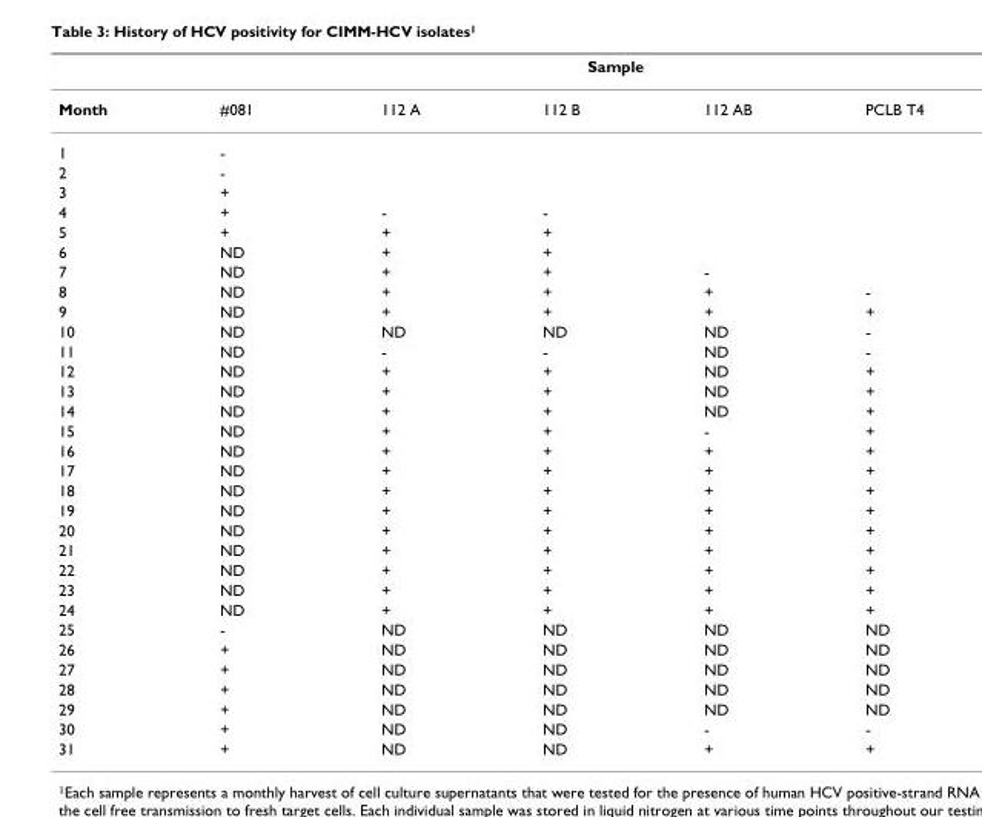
<table><thead><tr><td rowspan="2">Month</td><td colspan="5">Sample</td></tr><tr><td>#081</td><td>112 A</td><td>112 B</td><td>112 AB</td><td>PCLB T4</td></tr></thead><tbody><tr><td>1</td><td>-</td><td></td><td></td><td></td><td></td></tr><tr><td>2</td><td>-</td><td></td><td></td><td></td><td></td></tr><tr><td>3</td><td>+</td><td></td><td></td><td></td><td></td></tr><tr><td>4</td><td>+</td><td>-</td><td>-</td><td></td><td></td></tr><tr><td>5</td><td>+</td><td>+</td><td>+</td><td></td><td></td></tr><tr><td>6</td><td>ND</td><td>+</td><td>+</td><td></td><td></td></tr><tr><td>7</td><td>ND</td><td>+</td><td>+</td><td>-</td><td></td></tr><tr><td>8</td><td>ND</td><td>+</td><td>+</td><td>+</td><td>-</td></tr><tr><td>9</td><td>ND</td><td>+</td><td>+</td><td>+</td><td>+</td></tr><tr><td>10</td><td>ND</td><td>ND</td><td>ND</td><td>ND</td><td>-</td></tr><tr><td>11</td><td>ND</td><td>-</td><td>-</td><td>ND</td><td>-</td></tr><tr><td>12</td><td>ND</td><td>+</td><td>+</td><td>ND</td><td>+</td></tr><tr><td>13</td><td>ND</td><td>+</td><td>+</td><td>ND</td><td>+</td></tr><tr><td>14</td><td>ND</td><td>+</td><td>+</td><td>ND</td><td>+</td></tr><tr><td>15</td><td>ND</td><td>+</td><td>+</td><td>-</td><td>+</td></tr><tr><td>16</td><td>ND</td><td>+</td><td>+</td><td>+</td><td>+</td></tr><tr><td>17</td><td>ND</td><td>+</td><td>+</td><td>+</td><td>+</td></tr><tr><td>18</td><td>ND</td><td>+</td><td>+</td><td>+</td><td>+</td></tr><tr><td>19</td><td>ND</td><td>+</td><td>+</td><td>+</td><td>+</td></tr><tr><td>20</td><td>ND</td><td>+</td><td>+</td><td>+</td><td>+</td></tr><tr><td>21</td><td>ND</td><td>+</td><td>+</td><td>+</td><td>+</td></tr><tr><td>22</td><td>ND</td><td>+</td><td>+</td><td>+</td><td>+</td></tr><tr><td>23</td><td>ND</td><td>+</td><td>+</td><td>+</td><td>+</td></tr><tr><td>24</td><td>ND</td><td>+</td><td>+</td><td>+</td><td>+</td></tr><tr><td>25</td><td>-</td><td>ND</td><td>ND</td><td>ND</td><td>ND</td></tr><tr><td>26</td><td>+</td><td>ND</td><td>ND</td><td>ND</td><td>ND</td></tr><tr><td>27</td><td>+</td><td>ND</td><td>ND</td><td>ND</td><td>ND</td></tr><tr><td>28</td><td>+</td><td>ND</td><td>ND</td><td>ND</td><td>ND</td></tr><tr><td>29</td><td>+</td><td>ND</td><td>ND</td><td>ND</td><td>ND</td></tr><tr><td>30</td><td>+</td><td>ND</td><td>ND</td><td>-</td><td>-</td></tr><tr><td>31</td><td>+</td><td>ND</td><td>ND</td><td>+</td><td>+</td></tr></tbody></table>